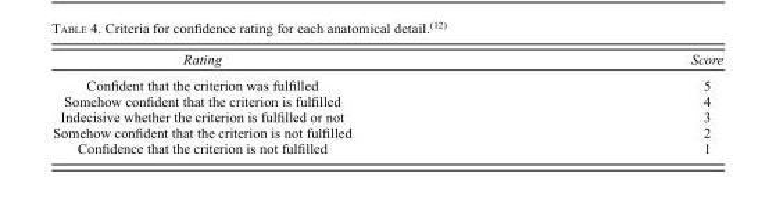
<table><thead><tr><td>Rating</td><td>Score</td></tr></thead><tbody><tr><td>Confident that the criterion was fulfilled</td><td>5</td></tr><tr><td>Somehow confident that the criterion is fulfilled</td><td>4</td></tr><tr><td>Indecisive whether the criterion is fulfilled or not</td><td>3</td></tr><tr><td>Somehow confident that the criterion is not fulfilled</td><td>2</td></tr><tr><td>Confidence that the criterion is not fulfilled</td><td>1</td></tr></tbody></table>